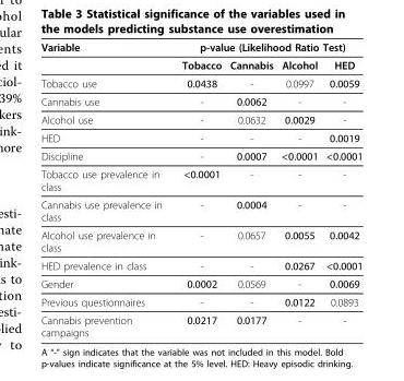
<table><thead><tr><td rowspan="2">Variable</td><td colspan="4">p-value (Likelihood Ratio Test)</td></tr><tr><td>Tobacco</td><td>Cannabis</td><td>Alcohol</td><td>HED</td></tr></thead><tbody><tr><td>Tobacco use</td><td>0.0438</td><td>-</td><td>0.0997</td><td>0.0059</td></tr><tr><td>Cannabis use</td><td>-</td><td>0.0062</td><td>-</td><td>-</td></tr><tr><td>Alcohol use</td><td>-</td><td>0.0632</td><td>0.0029</td><td>-</td></tr><tr><td>HED</td><td>-</td><td>-</td><td>-</td><td>0.0019</td></tr><tr><td>Discipline</td><td>-</td><td>0.0007</td><td>&lt;0.0001</td><td>&lt;0.0001</td></tr><tr><td>Tobacco use prevalence in class</td><td>&lt;0.0001</td><td>-</td><td>-</td><td>-</td></tr><tr><td>Cannabis use prevalence in class</td><td>-</td><td>0.0004</td><td>-</td><td>-</td></tr><tr><td>Alcohol use prevalence in class</td><td>-</td><td>0.0657</td><td>0.0055</td><td>0.0042</td></tr><tr><td>HED prevalence in class</td><td>-</td><td>-</td><td>0.0267</td><td>&lt;0.0001</td></tr><tr><td>Gender</td><td>0.0002</td><td>0.0569</td><td>-</td><td>0.0069</td></tr><tr><td>Previous questionnaires</td><td>-</td><td>-</td><td>0.0122</td><td>0.0893</td></tr><tr><td>Cannabis prevention campaigns</td><td>0.0217</td><td>0.0177</td><td>-</td><td>-</td></tr></tbody></table>